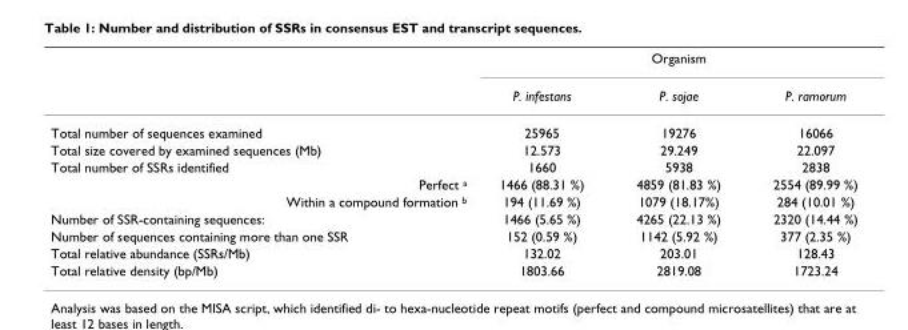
<table><thead><tr><td rowspan="2"></td><td colspan="3">Organism</td></tr><tr><td>P. infestans</td><td>P. sojae</td><td>P. ramorum</td></tr></thead><tbody><tr><td>Total number of sequences examined</td><td>25965</td><td>19276</td><td>16066</td></tr><tr><td>Total size covered by examined sequences (Mb)</td><td>12.573</td><td>29.249</td><td>22.097</td></tr><tr><td>Total number of SSRs identified</td><td>1660</td><td>5938</td><td>2838</td></tr><tr><td>Perfect a</td><td>1466 (88.31 %)</td><td>4859 (81.83 %)</td><td>2554 (89.99 %)</td></tr><tr><td>Within a compound formation b</td><td>194 (11.69 %)</td><td>1079 (18.17%)</td><td>284 (10.01 %)</td></tr><tr><td>Number of SSR-containing sequences:</td><td>1466 (5.65 %)</td><td>4265 (22.13 %)</td><td>2320 (14.44 %)</td></tr><tr><td>Number of sequences containing more than one SSR</td><td>152 (0.59 %)</td><td>1142 (5.92 %)</td><td>377 (2.35 %)</td></tr><tr><td>Total relative abundance (SSRs/Mb)</td><td>132.02</td><td>203.01</td><td>128.43</td></tr><tr><td>Total relative density (bp/Mb)</td><td>1803.66</td><td>2819.08</td><td>1723.24</td></tr></tbody></table>